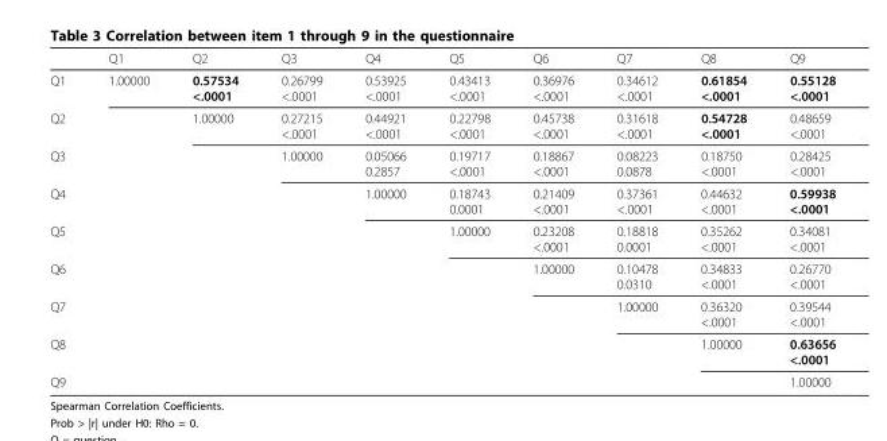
<table><thead><tr><td></td><td>Q1</td><td>Q2</td><td>Q3</td><td>Q4</td><td>Q5</td><td>Q6</td><td>Q7</td><td>Q8</td><td>Q9</td></tr></thead><tbody><tr><td>Q1</td><td>1.00000</td><td>0.57534 &lt;.0001</td><td>0.26799 &lt;.0001</td><td>0.53925 &lt;.0001</td><td>0.43413 &lt;.0001</td><td>0.36976 &lt;.0001</td><td>0.34612 &lt;.0001</td><td>0.61854 &lt;.0001</td><td>0.55128 &lt;.0001</td></tr><tr><td>Q2</td><td></td><td>1.00000</td><td>0.27215 &lt;.0001</td><td>0.44921 &lt;.0001</td><td>0.22798 &lt;.0001</td><td>0.45738 &lt;.0001</td><td>0.31618 &lt;.0001</td><td>0.54728 &lt;.0001</td><td>0.48659 &lt;.0001</td></tr><tr><td colspan="3">Q3</td><td>1.00000</td><td>0.05066 0.2857</td><td>0.19717 &lt;.0001</td><td>0.18867 &lt;.0001</td><td>0.08223 0.0878</td><td>0.18750 &lt;.0001</td><td>0.28425 &lt;.0001</td></tr><tr><td colspan="4">Q4</td><td>1.00000</td><td>0.18743 0.0001</td><td>0.21409 &lt;.0001</td><td>0.37361 &lt;.0001</td><td>0.44632 &lt;.0001</td><td>0.59938 &lt;.0001</td></tr><tr><td colspan="5">Q5</td><td>1.00000</td><td>0.23208 &lt;.0001</td><td>0.18818 0.0001</td><td>0.35262 &lt;.0001</td><td>0.34081 &lt;.0001</td></tr><tr><td colspan="6">Q6</td><td>1.00000</td><td>0.10478 0.0310</td><td>0.34833 &lt;.0001</td><td>0.26770 &lt;.0001</td></tr><tr><td colspan="6">Q7</td><td></td><td>1.00000</td><td>0.36320 &lt;.0001</td><td>0.39544 &lt;.0001</td></tr><tr><td colspan="6">Q8</td><td></td><td></td><td>1.00000</td><td>0.63656 &lt;.0001</td></tr><tr><td colspan="6">Q9</td><td></td><td></td><td></td><td>1.00000</td></tr></tbody></table>